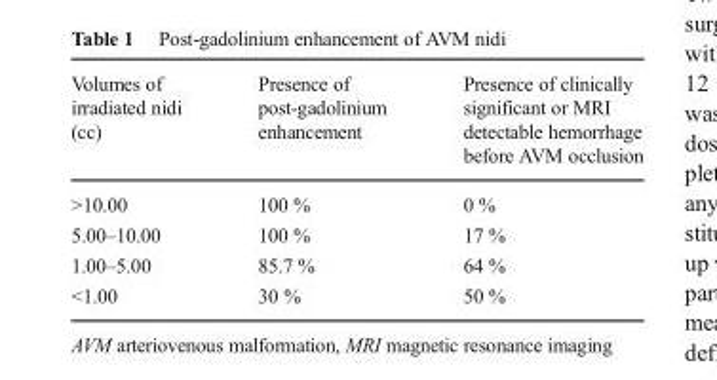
<table><thead><tr><td>Volumes of irradiated nidi (cc)</td><td>Presence of post-gadolinium enhancement</td><td>Presence of clinically significant or MRI detectable hemorrhage before AVM occlusion</td></tr></thead><tbody><tr><td>&gt;10.00</td><td>100 %</td><td>0 %</td></tr><tr><td>5.00–10.00</td><td>100 %</td><td>17 %</td></tr><tr><td>1.00–5.00</td><td>85.7 %</td><td>64 %</td></tr><tr><td>&lt;1.00</td><td>30 %</td><td>50 %</td></tr></tbody></table>